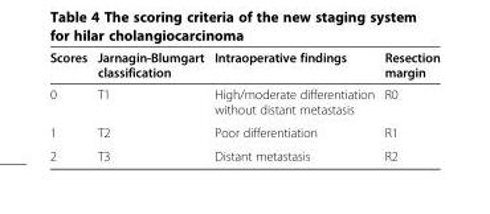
<table><thead><tr><td>Scores</td><td>Jarnagin-Blumgart classification</td><td>Intraoperative findings</td><td>Resection margin</td></tr></thead><tbody><tr><td>0</td><td>T1</td><td>High/moderate differentiation without distant metastasis</td><td>R0</td></tr><tr><td>1</td><td>T2</td><td>Poor differentiation</td><td>R1</td></tr><tr><td>2</td><td>T3</td><td>Distant metastasis</td><td>R2</td></tr></tbody></table>